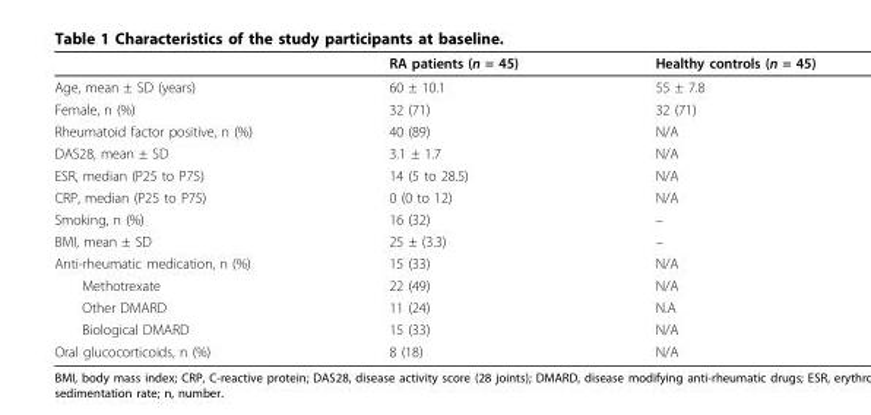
<table><thead><tr><td></td><td>RA patients (n = 45)</td><td>Healthy controls (n = 45)</td></tr></thead><tbody><tr><td>Age, mean ± SD (years)</td><td>60 ± 10.1</td><td>55 ± 7.8</td></tr><tr><td>Female, n (%)</td><td>32 (71)</td><td>32 (71)</td></tr><tr><td>Rheumatoid factor positive, n (%)</td><td>40 (89)</td><td>N/A</td></tr><tr><td>DAS28, mean ± SD</td><td>3.1 ± 1.7</td><td>N/A</td></tr><tr><td>ESR, median (P25 to P75)</td><td>14 (5 to 28.5)</td><td>N/A</td></tr><tr><td>CRP, median (P25 to P75)</td><td>0 (0 to 12)</td><td>N/A</td></tr><tr><td>Smoking, n (%)</td><td>16 (32)</td><td>–</td></tr><tr><td>BMI, mean ± SD</td><td>25 ± (3.3)</td><td>–</td></tr><tr><td>Anti-rheumatic medication, n (%)</td><td>15 (33)</td><td>N/A</td></tr><tr><td>Methotrexate</td><td>22 (49)</td><td>N/A</td></tr><tr><td>Other DMARD</td><td>11 (24)</td><td>N.A</td></tr><tr><td>Biological DMARD</td><td>15 (33)</td><td>N/A</td></tr><tr><td>Oral glucocorticoids, n (%)</td><td>8 (18)</td><td>N/A</td></tr></tbody></table>